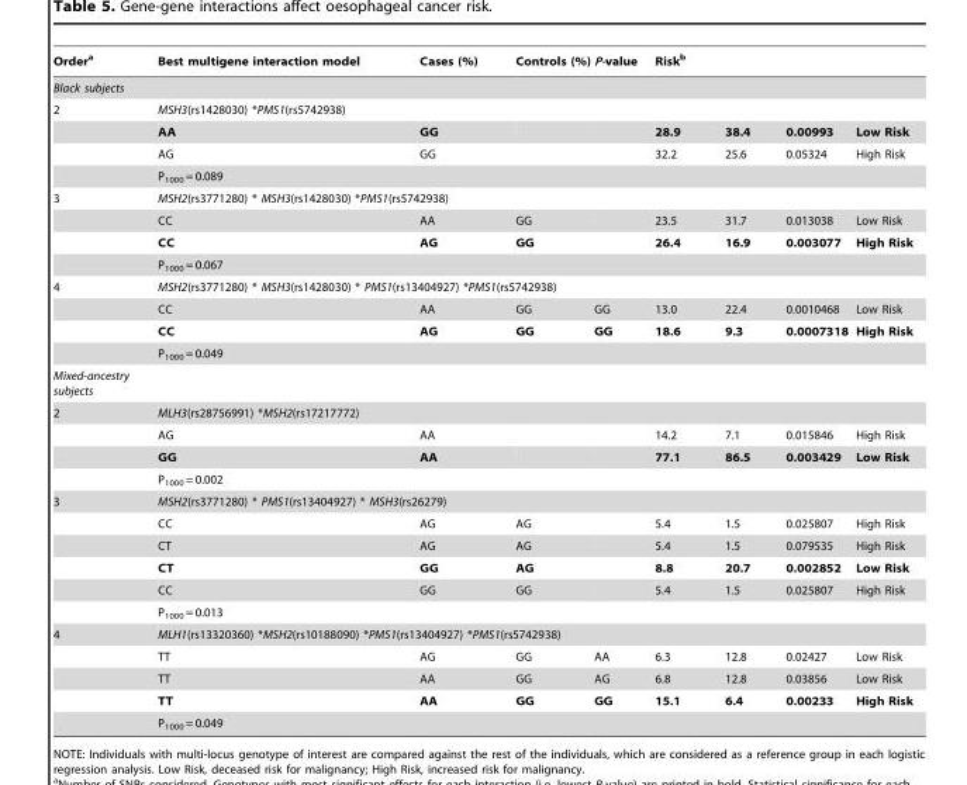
<table><thead><tr><td>Order<sup>a</sup></td><td>Best multigene interaction model</td><td>Cases (%)</td><td>Controls (%)</td><td>P-value</td><td colspan="4">Risk<sup>b</sup></td></tr><tr><td colspan="9">Black subjects</td></tr><tr><td rowspan="2">2</td><td colspan="8">MSH3(rs1428030) *PMS1(rs5742938)</td></tr><tr><td>AA</td><td>GG</td><td></td><td></td><td>28.9</td><td>38.4</td><td>0.00993</td><td>Low Risk</td></tr></thead><tbody><tr><td></td><td>AG</td><td>GG</td><td></td><td></td><td>32.2</td><td>25.6</td><td>0.05324</td><td>High Risk</td></tr><tr><td></td><td colspan="8">P<sub>1000</sub> = 0.089</td></tr><tr><td rowspan="4">3</td><td colspan="8">MSH2(rs3771280) * MSH3(rs1428030) *PMS1(rs5742938)</td></tr><tr><td>CC</td><td>AA</td><td>GG</td><td></td><td>23.5</td><td>31.7</td><td>0.013038</td><td>Low Risk</td></tr><tr><td>CC</td><td>AG</td><td>GG</td><td></td><td>26.4</td><td>16.9</td><td>0.003077</td><td>High Risk</td></tr><tr><td colspan="8">P<sub>1000</sub> = 0.067</td></tr><tr><td rowspan="4">4</td><td colspan="8">MSH2(rs3771280) * MSH3(rs1428030) * PMS1(rs13404927) *PMS1(rs5742938)</td></tr><tr><td>CC</td><td>AA</td><td>GG</td><td>GG</td><td>13.0</td><td>22.4</td><td>0.0010468</td><td>Low Risk</td></tr><tr><td>CC</td><td>AG</td><td>GG</td><td>GG</td><td>18.6</td><td>9.3</td><td>0.0007318</td><td>High Risk</td></tr><tr><td colspan="8">P<sub>1000</sub> = 0.049</td></tr><tr><td colspan="9">Mixed-ancestry subjects</td></tr><tr><td rowspan="4">2</td><td colspan="8">MLH3(rs28756991) *MSH2(rs17217772)</td></tr><tr><td>AG</td><td>AA</td><td></td><td></td><td>14.2</td><td>7.1</td><td>0.015846</td><td>High Risk</td></tr><tr><td>GG</td><td>AA</td><td></td><td></td><td>77.1</td><td>86.5</td><td>0.003429</td><td>Low Risk</td></tr><tr><td colspan="8">P<sub>1000</sub> = 0.002</td></tr><tr><td rowspan="6">3</td><td colspan="8">MSH2(rs3771280) * PMS1(rs13404927) * MSH3(rs26279)</td></tr><tr><td>CC</td><td>AG</td><td>AG</td><td></td><td>5.4</td><td>1.5</td><td>0.025807</td><td>High Risk</td></tr><tr><td>CT</td><td>AG</td><td>AG</td><td></td><td>5.4</td><td>1.5</td><td>0.079535</td><td>High Risk</td></tr><tr><td>CT</td><td>GG</td><td>AG</td><td></td><td>8.8</td><td>20.7</td><td>0.002852</td><td>Low Risk</td></tr><tr><td>CC</td><td>GG</td><td>GG</td><td></td><td>5.4</td><td>1.5</td><td>0.025807</td><td>High Risk</td></tr><tr><td colspan="8">P<sub>1000</sub> = 0.013</td></tr><tr><td rowspan="5">4</td><td colspan="8">MLH1(rs13320360) *MSH2(rs10188090) *PMS1(rs13404927) *PMS1(rs5742938)</td></tr><tr><td>TT</td><td>AG</td><td>GG</td><td>AA</td><td>6.3</td><td>12.8</td><td>0.02427</td><td>Low Risk</td></tr><tr><td>TT</td><td>AA</td><td>GG</td><td>AG</td><td>6.8</td><td>12.8</td><td>0.03856</td><td>Low Risk</td></tr><tr><td>TT</td><td>AA</td><td>GG</td><td>GG</td><td>15.1</td><td>6.4</td><td>0.00233</td><td>High Risk</td></tr><tr><td colspan="8">P<sub>1000</sub> = 0.049</td></tr></tbody></table>